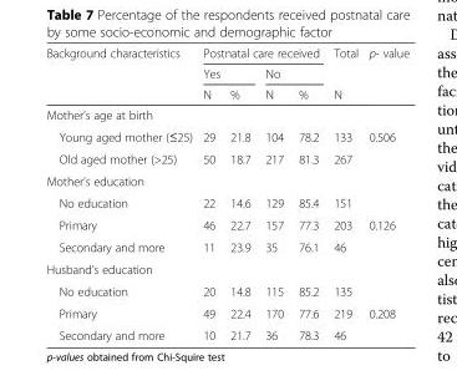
<table><thead><tr><td rowspan="3">Background characteristics</td><td colspan="4">Postnatal care received</td><td rowspan="3">Total N</td><td rowspan="3">p- value</td></tr><tr><td colspan="2">Yes</td><td colspan="2">No</td></tr><tr><td>N</td><td>%</td><td>N</td><td>%</td></tr></thead><tbody><tr><td colspan="7">Mother’s age at birth</td></tr><tr><td>Young aged mother (≤25)</td><td>29</td><td>21.8</td><td>104</td><td>78.2</td><td>133</td><td>0.506</td></tr><tr><td>Old aged mother (&gt;25)</td><td>50</td><td>18.7</td><td>217</td><td>81.3</td><td>267</td><td></td></tr><tr><td colspan="7">Mother’s education</td></tr><tr><td>No education</td><td>22</td><td>14.6</td><td>129</td><td>85.4</td><td>151</td><td></td></tr><tr><td>Primary</td><td>46</td><td>22.7</td><td>157</td><td>77.3</td><td>203</td><td>0.126</td></tr><tr><td>Secondary and more</td><td>11</td><td>23.9</td><td>35</td><td>76.1</td><td>46</td><td></td></tr><tr><td colspan="7">Husband’s education</td></tr><tr><td>No education</td><td>20</td><td>14.8</td><td>115</td><td>85.2</td><td>135</td><td></td></tr><tr><td>Primary</td><td>49</td><td>22.4</td><td>170</td><td>77.6</td><td>219</td><td>0.208</td></tr><tr><td>Secondary and more</td><td>10</td><td>21.7</td><td>36</td><td>78.3</td><td>46</td><td></td></tr></tbody></table>